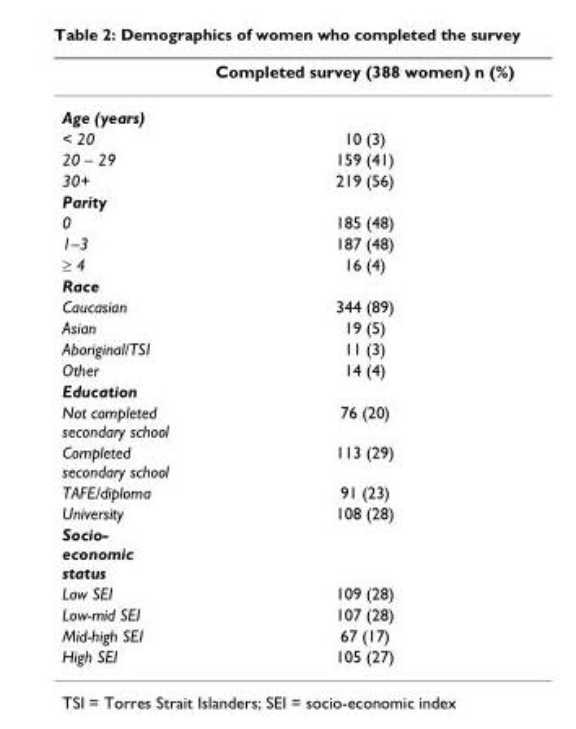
<table><thead><tr><td></td><td>Completed survey (388 women) n (%)</td></tr></thead><tbody><tr><td colspan="2">Age (years)</td></tr><tr><td>&lt; 20</td><td>10 (3)</td></tr><tr><td>20 – 29</td><td>159 (41)</td></tr><tr><td>30+</td><td>219 (56)</td></tr><tr><td colspan="2">Parity</td></tr><tr><td>0</td><td>185 (48)</td></tr><tr><td>1–3</td><td>187 (48)</td></tr><tr><td>≥ 4</td><td>16 (4)</td></tr><tr><td colspan="2">Race</td></tr><tr><td>Caucasian</td><td>344 (89)</td></tr><tr><td>Asian</td><td>19 (5)</td></tr><tr><td>Aboriginal/TSI</td><td>11 (3)</td></tr><tr><td>Other</td><td>14 (4)</td></tr><tr><td colspan="2">Education</td></tr><tr><td>Not completed secondary school</td><td>76 (20)</td></tr><tr><td>Completed secondary school</td><td>113 (29)</td></tr><tr><td>TAFE/diploma</td><td>91 (23)</td></tr><tr><td>University</td><td>108 (28)</td></tr><tr><td colspan="2">Socio- economic status</td></tr><tr><td>Low SEI</td><td>109 (28)</td></tr><tr><td>Low-mid SEI</td><td>107 (28)</td></tr><tr><td>Mid-high SEI</td><td>67 (17)</td></tr><tr><td>High SEI</td><td>105 (27)</td></tr></tbody></table>